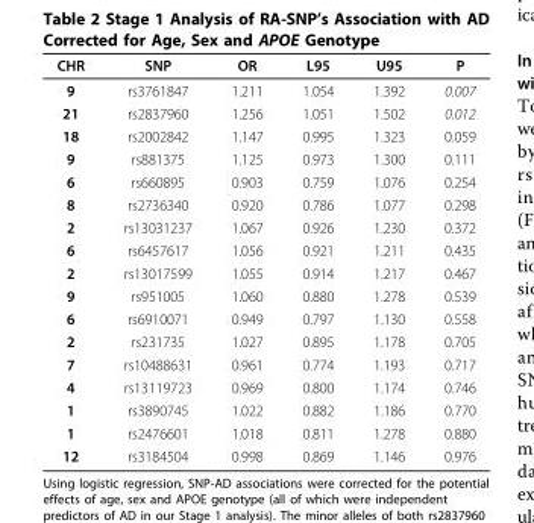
<table><thead><tr><td>CHR</td><td>SNP</td><td>OR</td><td>L95</td><td>U95</td><td>P</td></tr></thead><tbody><tr><td>9</td><td>rs3761847</td><td>1.211</td><td>1.054</td><td>1.392</td><td>0.007</td></tr><tr><td>21</td><td>rs2837960</td><td>1.256</td><td>1.051</td><td>1.502</td><td>0.012</td></tr><tr><td>18</td><td>rs2002842</td><td>1.147</td><td>0.995</td><td>1.323</td><td>0.059</td></tr><tr><td>9</td><td>rs881375</td><td>1.125</td><td>0.973</td><td>1.300</td><td>0.111</td></tr><tr><td>6</td><td>rs660895</td><td>0.903</td><td>0.759</td><td>1.076</td><td>0.254</td></tr><tr><td>8</td><td>rs2736340</td><td>0.920</td><td>0.786</td><td>1.077</td><td>0.298</td></tr><tr><td>2</td><td>rs13031237</td><td>1.067</td><td>0.926</td><td>1.230</td><td>0.372</td></tr><tr><td>6</td><td>rs6457617</td><td>1.056</td><td>0.921</td><td>1.211</td><td>0.435</td></tr><tr><td>2</td><td>rs13017599</td><td>1.055</td><td>0.914</td><td>1.217</td><td>0.467</td></tr><tr><td>9</td><td>rs951005</td><td>1.060</td><td>0.880</td><td>1.278</td><td>0.539</td></tr><tr><td>6</td><td>rs6910071</td><td>0.949</td><td>0.797</td><td>1.130</td><td>0.558</td></tr><tr><td>2</td><td>rs231735</td><td>1.027</td><td>0.895</td><td>1.178</td><td>0.705</td></tr><tr><td>7</td><td>rs10488631</td><td>0.961</td><td>0.774</td><td>1.193</td><td>0.717</td></tr><tr><td>4</td><td>rs13119723</td><td>0.969</td><td>0.800</td><td>1.174</td><td>0.746</td></tr><tr><td>1</td><td>rs3890745</td><td>1.022</td><td>0.882</td><td>1.186</td><td>0.770</td></tr><tr><td>1</td><td>rs2476601</td><td>1.018</td><td>0.811</td><td>1.278</td><td>0.880</td></tr><tr><td>12</td><td>rs3184504</td><td>0.998</td><td>0.869</td><td>1.146</td><td>0.976</td></tr></tbody></table>